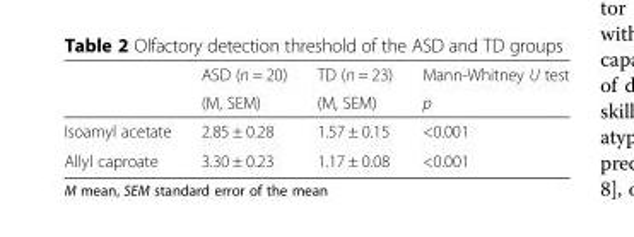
<table><thead><tr><td rowspan="2"></td><td rowspan="2">ASD (n = 20) (M, SEM)</td><td rowspan="2">TD (n = 23) (M, SEM)</td><td rowspan="2">Mann-Whitney U test p</td></tr><tr></tr></thead><tbody><tr><td>Isoamyl acetate</td><td>2.85 ± 0.28</td><td>1.57 ± 0.15</td><td>&lt;0.001</td></tr><tr><td>Allyl caproate</td><td>3.30 ± 0.23</td><td>1.17 ± 0.08</td><td>&lt;0.001</td></tr></tbody></table>